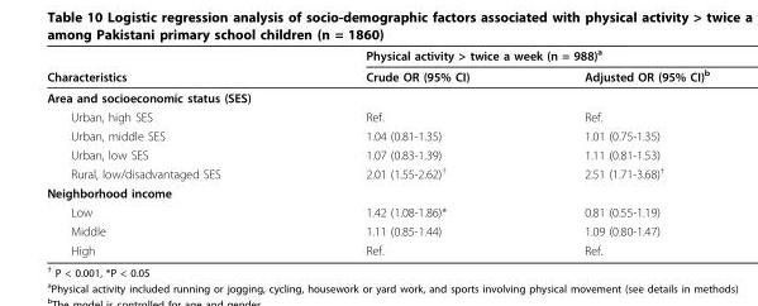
<table><thead><tr><td rowspan="2">Characteristics</td><td colspan="2">Physical activity &gt; twice a week (n = 988)<sup>a</sup></td></tr><tr><td>Crude OR (95% CI)</td><td>Adjusted OR (95% CI)<sup>b</sup></td></tr></thead><tbody><tr><td colspan="3">Area and socioeconomic status (SES)</td></tr><tr><td>Urban, high SES</td><td>Ref.</td><td>Ref.</td></tr><tr><td>Urban, middle SES</td><td>1.04 (0.81-1.35)</td><td>1.01 (0.75-1.35)</td></tr><tr><td>Urban, low SES</td><td>1.07 (0.83-1.39)</td><td>1.11 (0.81-1.53)</td></tr><tr><td>Rural, low/disadvantaged SES</td><td>2.01 (1.55-2.62)<sup>†</sup></td><td>2.51 (1.71-3.68)<sup>†</sup></td></tr><tr><td colspan="3">Neighborhood income</td></tr><tr><td>Low</td><td>1.42 (1.08-1.86)*</td><td>0.81 (0.55-1.19)</td></tr><tr><td>Middle</td><td>1.11 (0.85-1.44)</td><td>1.09 (0.80-1.47)</td></tr><tr><td>High</td><td>Ref.</td><td>Ref.</td></tr></tbody></table>